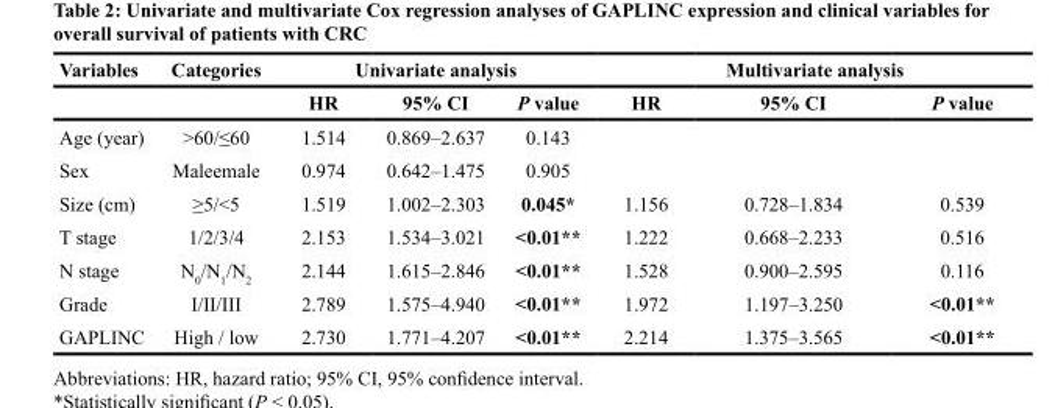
<table><thead><tr><td rowspan="2">Variables</td><td rowspan="2">Categories</td><td colspan="3">Univariate analysis</td><td colspan="3">Multivariate analysis</td></tr><tr><td>HR</td><td>95% CI</td><td>P value</td><td>HR</td><td>95% CI</td><td>P value</td></tr></thead><tbody><tr><td>Age (year)</td><td>&gt;60/≤60</td><td>1.514</td><td>0.869–2.637</td><td>0.143</td><td></td><td></td><td></td></tr><tr><td>Sex</td><td>Maleemale</td><td>0.974</td><td>0.642–1.475</td><td>0.905</td><td></td><td></td><td></td></tr><tr><td>Size (cm)</td><td>≥5/&lt;5</td><td>1.519</td><td>1.002–2.303</td><td>0.045*</td><td>1.156</td><td>0.728–1.834</td><td>0.539</td></tr><tr><td>T stage</td><td>1/2/3/4</td><td>2.153</td><td>1.534–3.021</td><td>&lt;0.01**</td><td>1.222</td><td>0.668–2.233</td><td>0.516</td></tr><tr><td>N stage</td><td>N<sub>0</sub>/N<sub>1</sub>/N<sub>2</sub></td><td>2.144</td><td>1.615–2.846</td><td>&lt;0.01**</td><td>1.528</td><td>0.900–2.595</td><td>0.116</td></tr><tr><td>Grade</td><td>I/II/III</td><td>2.789</td><td>1.575–4.940</td><td>&lt;0.01**</td><td>1.972</td><td>1.197–3.250</td><td>&lt;0.01**</td></tr><tr><td>GAPLINC</td><td>High / low</td><td>2.730</td><td>1.771–4.207</td><td>&lt;0.01**</td><td>2.214</td><td>1.375–3.565</td><td>&lt;0.01**</td></tr></tbody></table>